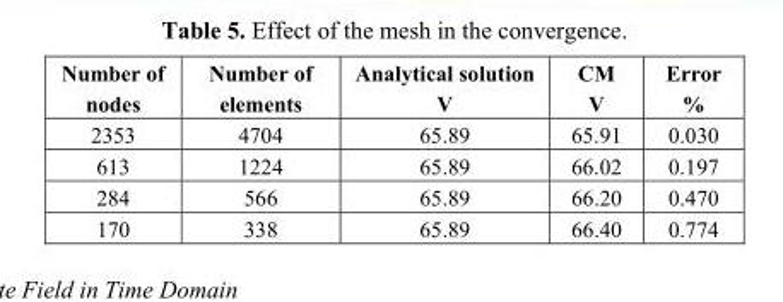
<table><thead><tr><td>Number of nodes</td><td>Number of elements</td><td>Analytical solution V</td><td>CM V</td><td>Error %</td></tr></thead><tbody><tr><td>2353</td><td>4704</td><td>65.89</td><td>65.91</td><td>0.030</td></tr><tr><td>613</td><td>1224</td><td>65.89</td><td>66.02</td><td>0.197</td></tr><tr><td>284</td><td>566</td><td>65.89</td><td>66.20</td><td>0.470</td></tr><tr><td>170</td><td>338</td><td>65.89</td><td>66.40</td><td>0.774</td></tr></tbody></table>